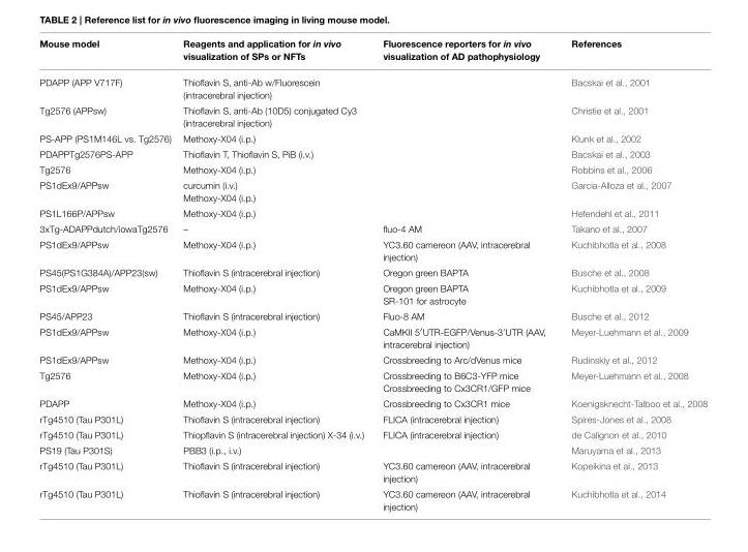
<table><thead><tr><td>Mouse model</td><td>Reagents and application for in vivo visualization of SPs or NFTs</td><td>Fluorescence reporters for in vivo visualization of AD pathophysiology</td><td>References</td></tr></thead><tbody><tr><td>PDAPP (APP V717F)</td><td>Thioflavin S, anti-Ab w/Fluorescein (intracerebral injection)</td><td></td><td>Bacskai et al., 2001</td></tr><tr><td>Tg2576 (APPsw)</td><td>Thioflavin S, anti-Ab (10D5) conjugated Cy3 (intracerebral injection)</td><td></td><td>Christie et al., 2001</td></tr><tr><td>PS-APP (PS1M146L vs. Tg2576)</td><td>Methoxy-X04 (i.p.)</td><td></td><td>Klunk et al., 2002</td></tr><tr><td>PDAPPTg2576PS-APP</td><td>Thioflavin T, Thioflavin S, PiB (i.v.)</td><td></td><td>Bacskai et al., 2003</td></tr><tr><td>Tg2576</td><td>Methoxy-X04 (i.p.)</td><td></td><td>Robbins et al., 2006</td></tr><tr><td>PS1dEx9/APPsw</td><td>curcumin (i.v.) Methoxy-X04 (i.p.)</td><td></td><td>Garcia-Alloza et al., 2007</td></tr><tr><td>PS1L166P/APPsw</td><td>Methoxy-X04 (i.p.)</td><td></td><td>Hefendehl et al., 2011</td></tr><tr><td>3xTg-ADAPPdutch/iowaTg2576</td><td>–</td><td>fluo-4 AM</td><td>Takano et al., 2007</td></tr><tr><td>PS1dEx9/APPsw</td><td>Methoxy-X04 (i.p.)</td><td>YC3.60 camereon (AAV, intracerebral injection)</td><td>Kuchibhotla et al., 2008</td></tr><tr><td>PS45(PS1G384A)/APP23(sw)</td><td>Thioflavin S (intracerebral injection)</td><td>Oregon green BAPTA</td><td>Busche et al., 2008</td></tr><tr><td>PS1dEx9/APPsw</td><td>Methoxy-X04 (i.p.)</td><td>Oregon green BAPTA SR-101 for astrocyte</td><td>Kuchibhotla et al., 2009</td></tr><tr><td>PS45/APP23</td><td>Thioflavin S (intracerebral injection)</td><td>Fluo-8 AM</td><td>Busche et al., 2012</td></tr><tr><td>PS1dEx9/APPsw</td><td>Methoxy-X04 (i.p.)</td><td>CaMKII 5′UTR-EGFP/Venus-3’UTR (AAV, intracerebral injection)</td><td>Meyer-Luehmann et al., 2009</td></tr><tr><td>PS1dEx9/APPsw</td><td>Methoxy-X04 (i.p.)</td><td>Crossbreeding to Arc/dVenus mice</td><td>Rudinskiy et al., 2012</td></tr><tr><td>Tg2576</td><td>Methoxy-X04 (i.p.)</td><td>Crossbreeding to B6C3-YFP mice Crossbreeding to Cx3CR1/GFP mice</td><td>Meyer-Luehmann et al., 2008</td></tr><tr><td>PDAPP</td><td>Methoxy-X04 (i.p.)</td><td>Crossbreeding to Cx3CR1 mice</td><td>Koenigsknecht-Talboo et al., 2008</td></tr><tr><td>rTg4510 (Tau P301L)</td><td>Thioflavin S (intracerebral injection)</td><td>FLICA (intracerebral injection)</td><td>Spires-Jones et al., 2008</td></tr><tr><td>rTg4510 (Tau P301L)</td><td>Thiopflavin S (intracerebral injection) X-34 (i.v.)</td><td>FLICA (intracerebral injection)</td><td>de Calignon et al., 2010</td></tr><tr><td>PS19 (Tau P301S)</td><td>PBB3 (i.p., i.v.)</td><td></td><td>Maruyama et al., 2013</td></tr><tr><td>rTg4510 (Tau P301L)</td><td>Thioflavin S (intracerebral injection)</td><td>YC3.60 camereon (AAV, intracerebral injection)</td><td>Kopeikina et al., 2013</td></tr><tr><td>rTg4510 (Tau P301L)</td><td>Thioflavin S (intracerebral injection)</td><td>YC3.60 camereon (AAV, intracerebral injection)</td><td>Kuchibhotla et al., 2014</td></tr></tbody></table>